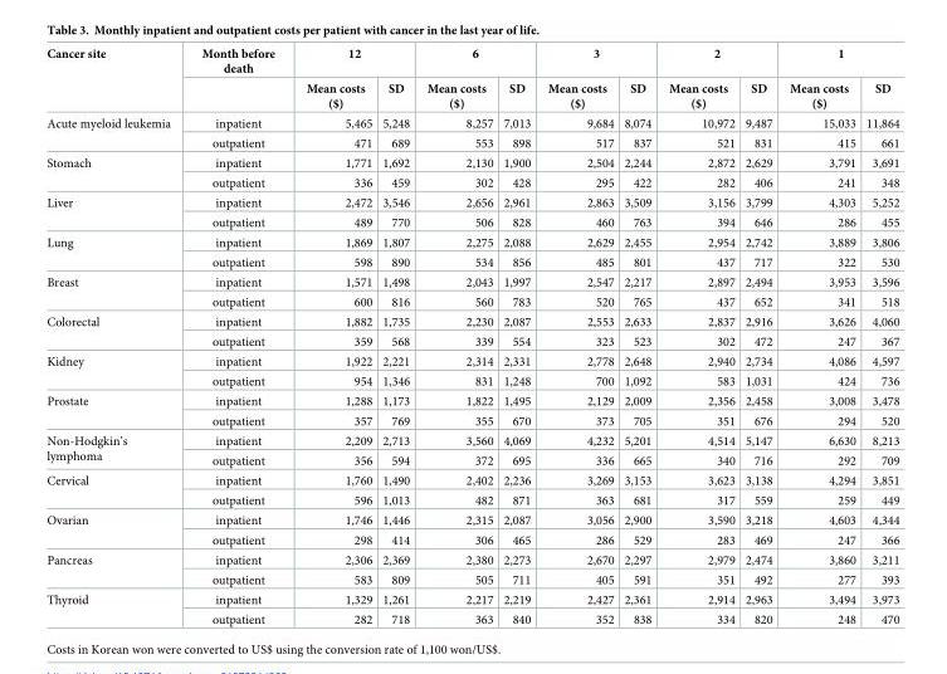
<table><thead><tr><td rowspan="2">Cancer site</td><td rowspan="2">Month before death</td><td colspan="2">12</td><td colspan="2">6</td><td colspan="2">3</td><td colspan="2">2</td><td colspan="2">1</td></tr><tr><td>Mean costs ($)</td><td>SD</td><td>Mean costs ($)</td><td>SD</td><td>Mean costs ($)</td><td>SD</td><td>Mean costs ($)</td><td>SD</td><td>Mean costs ($)</td><td>SD</td></tr></thead><tbody><tr><td rowspan="2">Acute myeloid leukemia</td><td>inpatient</td><td>5,465</td><td>5,248</td><td>8,257</td><td>7,013</td><td>9,684</td><td>8,074</td><td>10,972</td><td>9,487</td><td>15,033</td><td>11,864</td></tr><tr><td>outpatient</td><td>471</td><td>689</td><td>553</td><td>898</td><td>517</td><td>837</td><td>521</td><td>831</td><td>415</td><td>661</td></tr><tr><td rowspan="2">Stomach</td><td>inpatient</td><td>1,771</td><td>1,692</td><td>2,130</td><td>1,900</td><td>2,504</td><td>2,244</td><td>2,872</td><td>2,629</td><td>3,791</td><td>3,691</td></tr><tr><td>outpatient</td><td>336</td><td>459</td><td>302</td><td>428</td><td>295</td><td>422</td><td>282</td><td>406</td><td>241</td><td>348</td></tr><tr><td rowspan="2">Liver</td><td>inpatient</td><td>2,472</td><td>3,546</td><td>2,656</td><td>2,961</td><td>2,863</td><td>3,509</td><td>3,156</td><td>3,799</td><td>4,303</td><td>5,252</td></tr><tr><td>outpatient</td><td>489</td><td>770</td><td>506</td><td>828</td><td>460</td><td>763</td><td>394</td><td>646</td><td>286</td><td>455</td></tr><tr><td rowspan="2">Lung</td><td>inpatient</td><td>1,869</td><td>1,807</td><td>2,275</td><td>2,088</td><td>2,629</td><td>2,455</td><td>2,954</td><td>2,742</td><td>3,889</td><td>3,806</td></tr><tr><td>outpatient</td><td>598</td><td>890</td><td>534</td><td>856</td><td>485</td><td>801</td><td>437</td><td>717</td><td>322</td><td>530</td></tr><tr><td rowspan="2">Breast</td><td>inpatient</td><td>1,571</td><td>1,498</td><td>2,043</td><td>1,997</td><td>2,547</td><td>2,217</td><td>2,897</td><td>2,494</td><td>3,953</td><td>3,596</td></tr><tr><td>outpatient</td><td>600</td><td>816</td><td>560</td><td>783</td><td>520</td><td>765</td><td>437</td><td>652</td><td>341</td><td>518</td></tr><tr><td rowspan="2">Colorectal</td><td>inpatient</td><td>1,882</td><td>1,735</td><td>2,230</td><td>2,087</td><td>2,553</td><td>2,633</td><td>2,837</td><td>2,916</td><td>3,626</td><td>4,060</td></tr><tr><td>outpatient</td><td>359</td><td>568</td><td>339</td><td>554</td><td>323</td><td>523</td><td>302</td><td>472</td><td>247</td><td>367</td></tr><tr><td rowspan="2">Kidney</td><td>inpatient</td><td>1,922</td><td>2,221</td><td>2,314</td><td>2,331</td><td>2,778</td><td>2,648</td><td>2,940</td><td>2,734</td><td>4,086</td><td>4,597</td></tr><tr><td>outpatient</td><td>954</td><td>1,346</td><td>831</td><td>1,248</td><td>700</td><td>1,092</td><td>583</td><td>1,031</td><td>424</td><td>736</td></tr><tr><td rowspan="2">Prostate</td><td>inpatient</td><td>1,288</td><td>1,173</td><td>1,822</td><td>1,495</td><td>2,129</td><td>2,009</td><td>2,356</td><td>2,458</td><td>3,008</td><td>3,478</td></tr><tr><td>outpatient</td><td>357</td><td>769</td><td>355</td><td>670</td><td>373</td><td>705</td><td>351</td><td>676</td><td>294</td><td>520</td></tr><tr><td rowspan="2">Non-Hodgkin’s lymphoma</td><td>inpatient</td><td>2,209</td><td>2,713</td><td>3,560</td><td>4,069</td><td>4,232</td><td>5,201</td><td>4,514</td><td>5,147</td><td>6,630</td><td>8,213</td></tr><tr><td>outpatient</td><td>356</td><td>594</td><td>372</td><td>695</td><td>336</td><td>665</td><td>340</td><td>716</td><td>292</td><td>709</td></tr><tr><td rowspan="2">Cervical</td><td>inpatient</td><td>1,760</td><td>1,490</td><td>2,402</td><td>2,236</td><td>3,269</td><td>3,153</td><td>3,623</td><td>3,138</td><td>4,294</td><td>3,851</td></tr><tr><td>outpatient</td><td>596</td><td>1,013</td><td>482</td><td>871</td><td>363</td><td>681</td><td>317</td><td>559</td><td>259</td><td>449</td></tr><tr><td rowspan="2">Ovarian</td><td>inpatient</td><td>1,746</td><td>1,446</td><td>2,315</td><td>2,087</td><td>3,056</td><td>2,900</td><td>3,590</td><td>3,218</td><td>4,603</td><td>4,344</td></tr><tr><td>outpatient</td><td>298</td><td>414</td><td>306</td><td>465</td><td>286</td><td>529</td><td>283</td><td>469</td><td>247</td><td>366</td></tr><tr><td rowspan="2">Pancreas</td><td>inpatient</td><td>2,306</td><td>2,369</td><td>2,380</td><td>2,273</td><td>2,670</td><td>2,297</td><td>2,979</td><td>2,474</td><td>3,860</td><td>3,211</td></tr><tr><td>outpatient</td><td>583</td><td>809</td><td>505</td><td>711</td><td>405</td><td>591</td><td>351</td><td>492</td><td>277</td><td>393</td></tr><tr><td rowspan="2">Thyroid</td><td>inpatient</td><td>1,329</td><td>1,261</td><td>2,217</td><td>2,219</td><td>2,427</td><td>2,361</td><td>2,914</td><td>2,963</td><td>3,494</td><td>3,973</td></tr><tr><td>outpatient</td><td>282</td><td>718</td><td>363</td><td>840</td><td>352</td><td>838</td><td>334</td><td>820</td><td>248</td><td>470</td></tr></tbody></table>